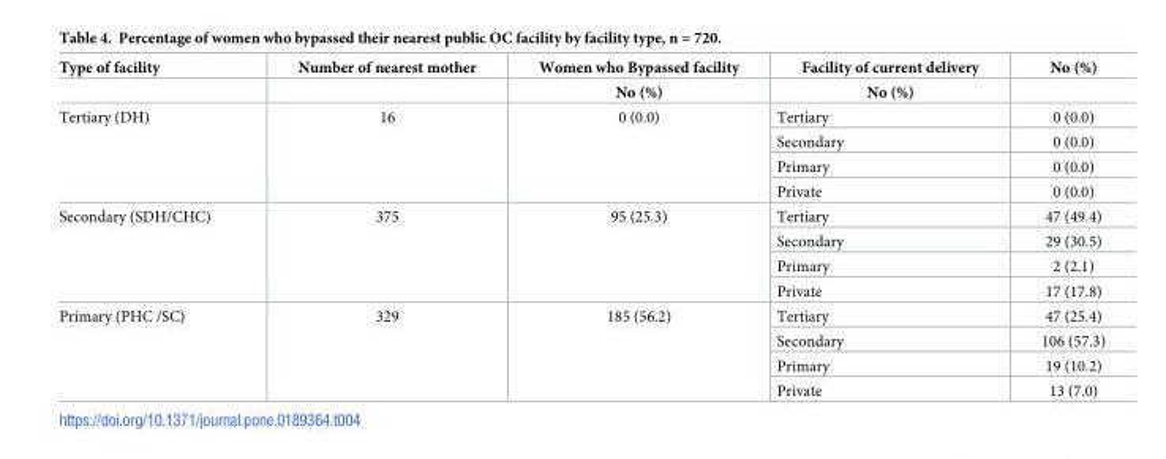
<table><thead><tr><td rowspan="2">Type of facility</td><td rowspan="2">Number of nearest mother</td><td rowspan="2">Women who Bypassed facility No (%)</td><td rowspan="2">Facility of current delivery No (%)</td><td rowspan="2">No (%)</td></tr><tr></tr></thead><tbody><tr><td rowspan="4">Tertiary (DH)</td><td rowspan="4">16</td><td rowspan="4">0 (0.0)</td><td>Tertiary</td><td>0 (0.0)</td></tr><tr><td>Secondary</td><td>0 (0.0)</td></tr><tr><td>Primary</td><td>0 (0.0)</td></tr><tr><td>Private</td><td>0 (0.0)</td></tr><tr><td rowspan="4">Secondary (SDH/CHC)</td><td rowspan="4">375</td><td rowspan="4">95 (25.3)</td><td>Tertiary</td><td>47 (49.4)</td></tr><tr><td>Secondary</td><td>29 (30.5)</td></tr><tr><td>Primary</td><td>2 (2.1)</td></tr><tr><td>Private</td><td>17 (17.8)</td></tr><tr><td rowspan="4">Primary (PHC /SC)</td><td rowspan="4">329</td><td rowspan="4">185 (56.2)</td><td>Tertiary</td><td>47 (25.4)</td></tr><tr><td>Secondary</td><td>106 (57.3)</td></tr><tr><td>Primary</td><td>19 (10.2)</td></tr><tr><td>Private</td><td>13 (7.0)</td></tr></tbody></table>